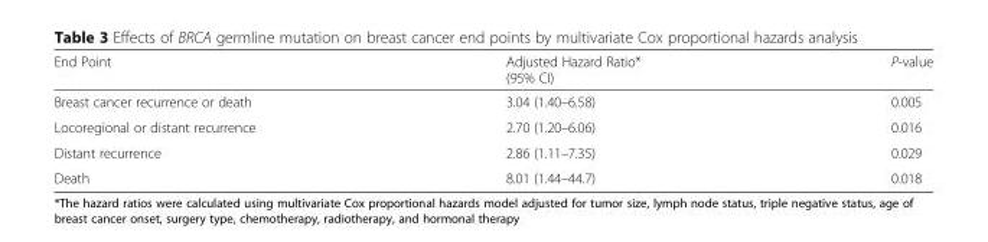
<table><thead><tr><td>End Point</td><td>Adjusted Hazard Ratio* (95% CI)</td><td>P-value</td></tr></thead><tbody><tr><td>Breast cancer recurrence or death</td><td>3.04 (1.40–6.58)</td><td>0.005</td></tr><tr><td>Locoregional or distant recurrence</td><td>2.70 (1.20–6.06)</td><td>0.016</td></tr><tr><td>Distant recurrence</td><td>2.86 (1.11–7.35)</td><td>0.029</td></tr><tr><td>Death</td><td>8.01 (1.44–44.7)</td><td>0.018</td></tr></tbody></table>